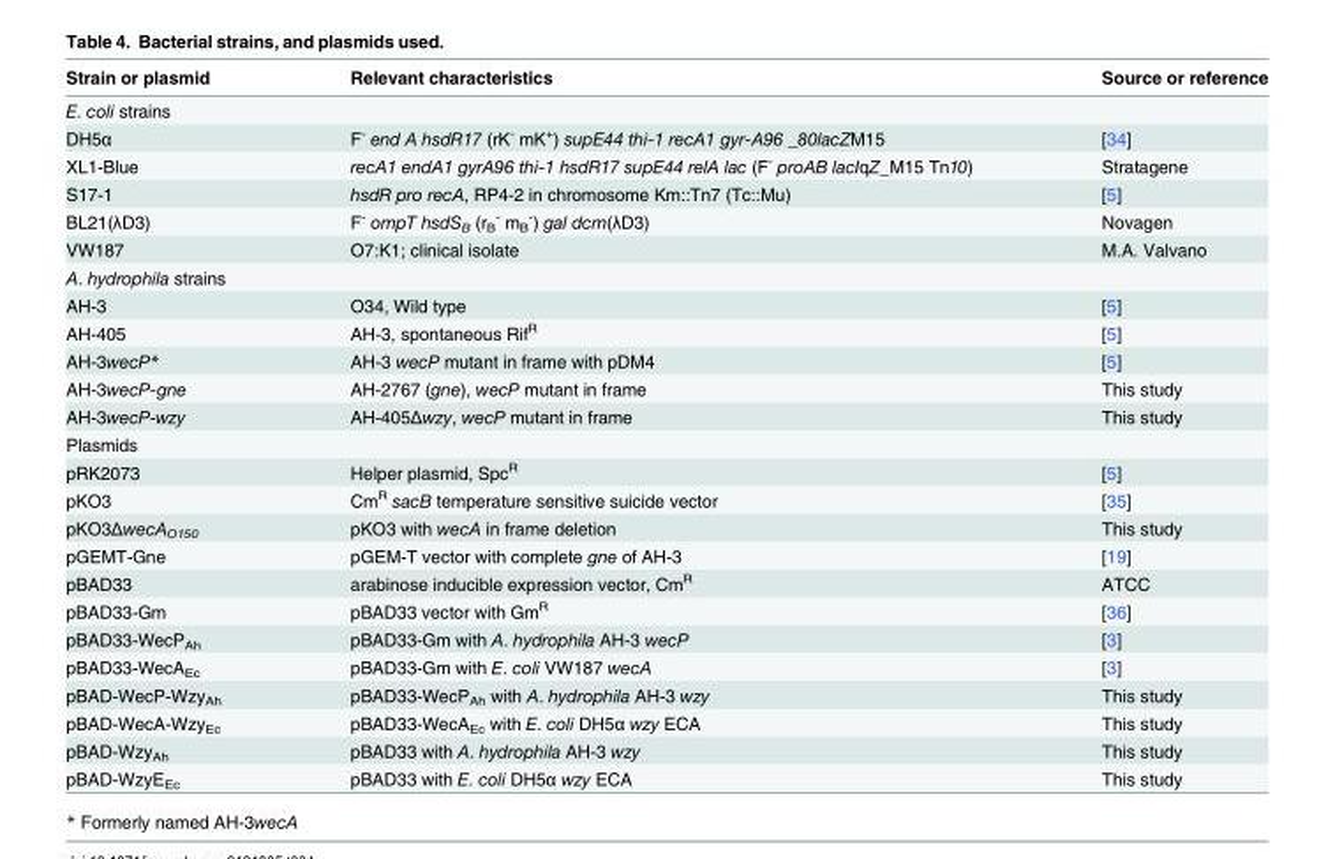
<table><thead><tr><td>Strain or plasmid</td><td>Relevant characteristics</td><td>Source or reference</td></tr></thead><tbody><tr><td colspan="3">E. coli strains</td></tr><tr><td>DH5α</td><td>F<sup>-</sup> end A hsdR17 (rK<sup>-</sup> mK<sup>+</sup>) supE44 thi-1 recA1 gyr-A96 _80lacZM15</td><td>[34]</td></tr><tr><td>XL1-Blue</td><td>recA1 endA1 gyrA96 thi-1 hsdR17 supE44 relA lac (F<sup>-</sup> proAB lacIqZ_M15 Tn10)</td><td>Stratagene</td></tr><tr><td>S17-1</td><td>hsdR pro recA, RP4-2 in chromosome Km::Tn7 (Tc::Mu)</td><td>[5]</td></tr><tr><td>BL21(λD3)</td><td>F<sup>-</sup> ompT hsdS<sub>B</sub> (r<sub>B</sub> <sup>-</sup> m<sub>B</sub> <sup>-</sup>) gal dcm(λD3)</td><td>Novagen</td></tr><tr><td>VW187</td><td>O7:K1; clinical isolate</td><td>M.A. Valvano</td></tr><tr><td colspan="3">A. hydrophila strains</td></tr><tr><td>AH-3</td><td>O34, Wild type</td><td>[5]</td></tr><tr><td>AH-405</td><td>AH-3, spontaneous Rif<sup>R</sup></td><td>[5]</td></tr><tr><td>AH-3wecP*</td><td>AH-3 wecP mutant in frame with pDM4</td><td>[5]</td></tr><tr><td>AH-3wecP-gne</td><td>AH-2767 (gne), wecP mutant in frame</td><td>This study</td></tr><tr><td>AH-3wecP-wzy</td><td>AH-405Δwzy, wecP mutant in frame</td><td>This study</td></tr><tr><td colspan="3">Plasmids</td></tr><tr><td>pRK2073</td><td>Helper plasmid, Spc<sup>R</sup></td><td>[5]</td></tr><tr><td>pKO3</td><td>Cm<sup>R</sup> sacB temperature sensitive suicide vector</td><td>[35]</td></tr><tr><td>pKO3ΔwecA<sub>O150</sub></td><td>pKO3 with wecA in frame deletion</td><td>This study</td></tr><tr><td>pGEMT-Gne</td><td>pGEM-T vector with complete gne of AH-3</td><td>[19]</td></tr><tr><td>pBAD33</td><td>arabinose inducible expression vector, Cm<sup>R</sup></td><td>ATCC</td></tr><tr><td>pBAD33-Gm</td><td>pBAD33 vector with Gm<sup>R</sup></td><td>[36]</td></tr><tr><td>pBAD33-WecP<sub>Ah</sub></td><td>pBAD33-Gm with A. hydrophila AH-3 wecP</td><td>[3]</td></tr><tr><td>pBAD33-WecA<sub>Ec</sub></td><td>pBAD33-Gm with E. coli VW187 wecA</td><td>[3]</td></tr><tr><td>pBAD-WecP-Wzy<sub>Ah</sub></td><td>pBAD33-WecP<sub>Ah</sub> with A. hydrophila AH-3 wzy</td><td>This study</td></tr><tr><td>pBAD-WecA-Wzy<sub>Ec</sub></td><td>pBAD33-WecA<sub>Ec</sub> with E. coli DH5α wzy ECA</td><td>This study</td></tr><tr><td>pBAD-Wzy<sub>Ah</sub></td><td>pBAD33 with A. hydrophila AH-3 wzy</td><td>This study</td></tr><tr><td>pBAD-WzyE<sub>Ec</sub></td><td>pBAD33 with E. coli DH5α wzy ECA</td><td>This study</td></tr></tbody></table>